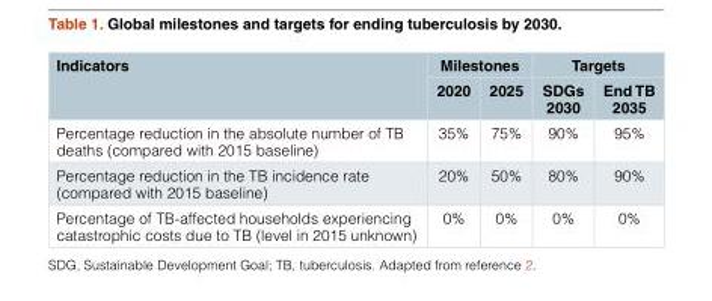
<table><thead><tr><td rowspan="2">Indicators</td><td colspan="2">Milestones</td><td colspan="2">Targets</td></tr><tr><td>2020</td><td>2025</td><td>SDGs 2030</td><td>End TB 2035</td></tr></thead><tbody><tr><td>Percentage reduction in the absolute number of TB deaths (compared with 2015 baseline)</td><td>35%</td><td>75%</td><td>90%</td><td>95%</td></tr><tr><td>Percentage reduction in the TB incidence rate (compared with 2015 baseline)</td><td>20%</td><td>50%</td><td>80%</td><td>90%</td></tr><tr><td>Percentage of TB-affected households experiencing catastrophic costs due to TB (level in 2015 unknown)</td><td>0%</td><td>0%</td><td>0%</td><td>0%</td></tr></tbody></table>